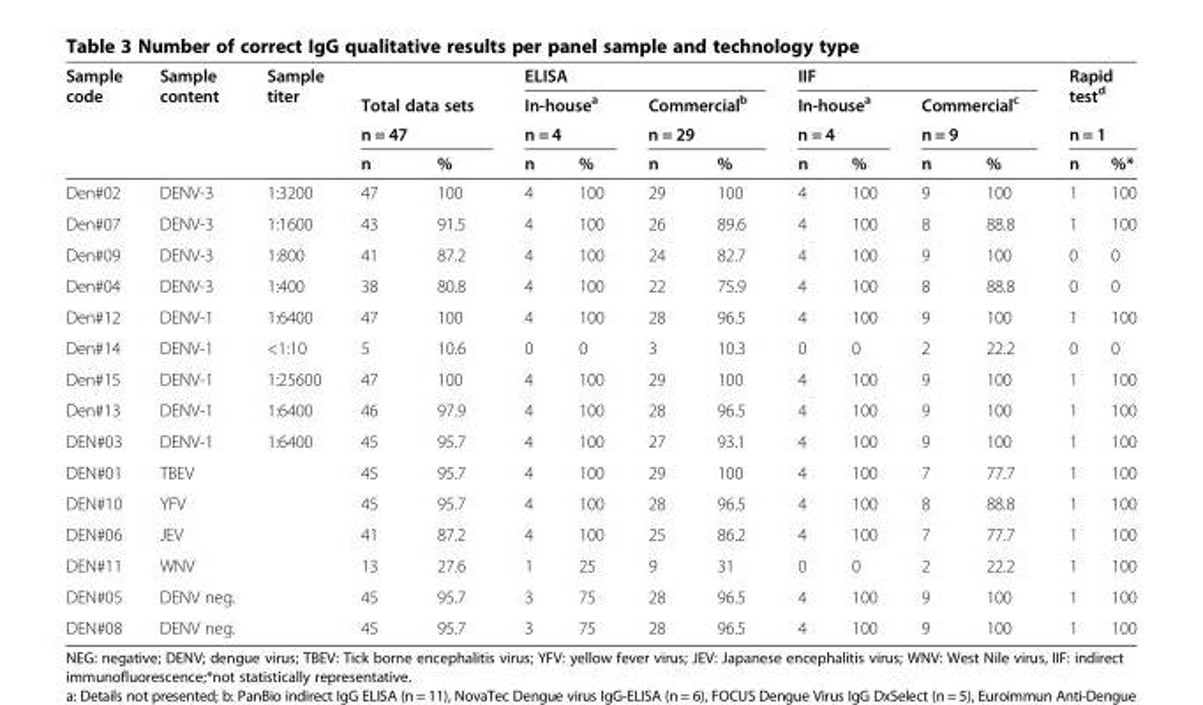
<table><thead><tr><td rowspan="4">Sample code</td><td rowspan="4">Sample content</td><td rowspan="4">Sample titer</td><td></td><td></td><td colspan="4">ELISA</td><td colspan="4">IIF</td><td rowspan="3" colspan="2">Rapid test<sup>d</sup> n = 1</td></tr><tr><td rowspan="2" colspan="2">Total data sets n = 47</td><td rowspan="2" colspan="2">In-house<sup>a</sup> n = 4</td><td rowspan="2" colspan="2">Commercial<sup>b</sup> n = 29</td><td rowspan="2" colspan="2">In-house<sup>a</sup> n = 4</td><td rowspan="2" colspan="2">Commercial<sup>c</sup> n = 9</td></tr><tr></tr><tr><td>n</td><td>%</td><td>n</td><td>%</td><td>n</td><td>%</td><td>n</td><td>%</td><td>n</td><td>%</td><td>n</td><td>%*</td></tr></thead><tbody><tr><td>Den#02</td><td>DENV-3</td><td>1:3200</td><td>47</td><td>100</td><td>4</td><td>100</td><td>29</td><td>100</td><td>4</td><td>100</td><td>9</td><td>100</td><td>1</td><td>100</td></tr><tr><td>Den#07</td><td>DENV-3</td><td>1:1600</td><td>43</td><td>91.5</td><td>4</td><td>100</td><td>26</td><td>89.6</td><td>4</td><td>100</td><td>8</td><td>88.8</td><td>1</td><td>100</td></tr><tr><td>Den#09</td><td>DENV-3</td><td>1:800</td><td>41</td><td>87.2</td><td>4</td><td>100</td><td>24</td><td>82.7</td><td>4</td><td>100</td><td>9</td><td>100</td><td>0</td><td>0</td></tr><tr><td>Den#04</td><td>DENV-3</td><td>1:400</td><td>38</td><td>80.8</td><td>4</td><td>100</td><td>22</td><td>75.9</td><td>4</td><td>100</td><td>8</td><td>88.8</td><td>0</td><td>0</td></tr><tr><td>Den#12</td><td>DENV-1</td><td>1:6400</td><td>47</td><td>100</td><td>4</td><td>100</td><td>28</td><td>96.5</td><td>4</td><td>100</td><td>9</td><td>100</td><td>1</td><td>100</td></tr><tr><td>Den#14</td><td>DENV-1</td><td>&lt;1:10</td><td>5</td><td>10.6</td><td>0</td><td>0</td><td>3</td><td>10.3</td><td>0</td><td>0</td><td>2</td><td>22.2</td><td>0</td><td>0</td></tr><tr><td>Den#15</td><td>DENV-1</td><td>1:25600</td><td>47</td><td>100</td><td>4</td><td>100</td><td>29</td><td>100</td><td>4</td><td>100</td><td>9</td><td>100</td><td>1</td><td>100</td></tr><tr><td>Den#13</td><td>DENV-1</td><td>1:6400</td><td>46</td><td>97.9</td><td>4</td><td>100</td><td>28</td><td>96.5</td><td>4</td><td>100</td><td>9</td><td>100</td><td>1</td><td>100</td></tr><tr><td>DEN#03</td><td>DENV-1</td><td>1:6400</td><td>45</td><td>95.7</td><td>4</td><td>100</td><td>27</td><td>93.1</td><td>4</td><td>100</td><td>9</td><td>100</td><td>1</td><td>100</td></tr><tr><td>DEN#01</td><td>TBEV</td><td></td><td>45</td><td>95.7</td><td>4</td><td>100</td><td>29</td><td>100</td><td>4</td><td>100</td><td>7</td><td>77.7</td><td>1</td><td>100</td></tr><tr><td>DEN#10</td><td>YFV</td><td></td><td>45</td><td>95.7</td><td>4</td><td>100</td><td>28</td><td>96.5</td><td>4</td><td>100</td><td>8</td><td>88.8</td><td>1</td><td>100</td></tr><tr><td>DEN#06</td><td>JEV</td><td></td><td>41</td><td>87.2</td><td>4</td><td>100</td><td>25</td><td>86.2</td><td>4</td><td>100</td><td>7</td><td>77.7</td><td>1</td><td>100</td></tr><tr><td>DEN#11</td><td>WNV</td><td></td><td>13</td><td>27.6</td><td>1</td><td>25</td><td>9</td><td>31</td><td>0</td><td>0</td><td>2</td><td>22.2</td><td>1</td><td>100</td></tr><tr><td>DEN#05</td><td>DENV neg.</td><td></td><td>45</td><td>95.7</td><td>3</td><td>75</td><td>28</td><td>96.5</td><td>4</td><td>100</td><td>9</td><td>100</td><td>1</td><td>100</td></tr><tr><td>DEN#08</td><td>DENV neg.</td><td></td><td>45</td><td>95.7</td><td>3</td><td>75</td><td>28</td><td>96.5</td><td>4</td><td>100</td><td>9</td><td>100</td><td>1</td><td>100</td></tr></tbody></table>